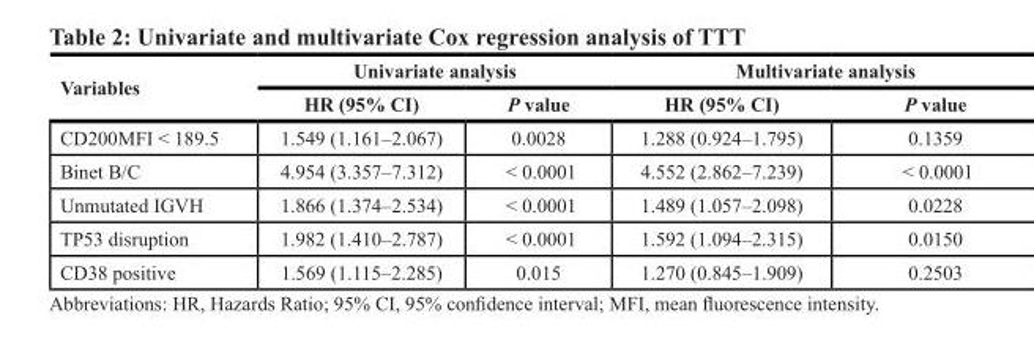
<table><thead><tr><td rowspan="2">Variables</td><td colspan="2">Univariate analysis</td><td colspan="2">Multivariate analysis</td></tr><tr><td>HR (95% CI)</td><td>P value</td><td>HR (95% CI)</td><td>P value</td></tr></thead><tbody><tr><td>CD200MFI &lt; 189.5</td><td>1.549 (1.161–2.067)</td><td>0.0028</td><td>1.288 (0.924–1.795)</td><td>0.1359</td></tr><tr><td>Binet B/C</td><td>4.954 (3.357–7.312)</td><td>&lt; 0.0001</td><td>4.552 (2.862–7.239)</td><td>&lt; 0.0001</td></tr><tr><td>Unmutated IGVH</td><td>1.866 (1.374–2.534)</td><td>&lt; 0.0001</td><td>1.489 (1.057–2.098)</td><td>0.0228</td></tr><tr><td>TP53 disruption</td><td>1.982 (1.410–2.787)</td><td>&lt; 0.0001</td><td>1.592 (1.094–2.315)</td><td>0.0150</td></tr><tr><td>CD38 positive</td><td>1.569 (1.115–2.285)</td><td>0.015</td><td>1.270 (0.845–1.909)</td><td>0.2503</td></tr></tbody></table>